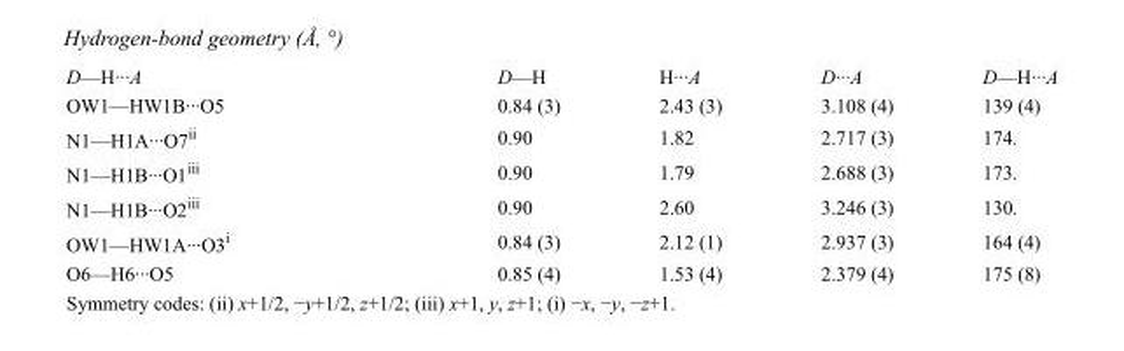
<table><tbody><tr><td>D—H···A</td><td>D—H</td><td>H···A</td><td>D···A</td><td>D—H···A</td></tr><tr><td>OW1—HW1B···O5</td><td>0.84 (3)</td><td>2.43 (3)</td><td>3.108 (4)</td><td>139 (4)</td></tr><tr><td>N1—H1A···O7<sup>ii</sup></td><td>0.90</td><td>1.82</td><td>2.717 (3)</td><td>174.</td></tr><tr><td>N1—H1B···O1<sup>iii</sup></td><td>0.90</td><td>1.79</td><td>2.688 (3)</td><td>173.</td></tr><tr><td>N1—H1B···O2<sup>iii</sup></td><td>0.90</td><td>2.60</td><td>3.246 (3)</td><td>130.</td></tr><tr><td>OW1—HW1A···O3<sup>i</sup></td><td>0.84 (3)</td><td>2.12 (1)</td><td>2.937 (3)</td><td>164 (4)</td></tr><tr><td>O6—H6···O5</td><td>0.85 (4)</td><td>1.53 (4)</td><td>2.379 (4)</td><td>175 (8)</td></tr></tbody></table>